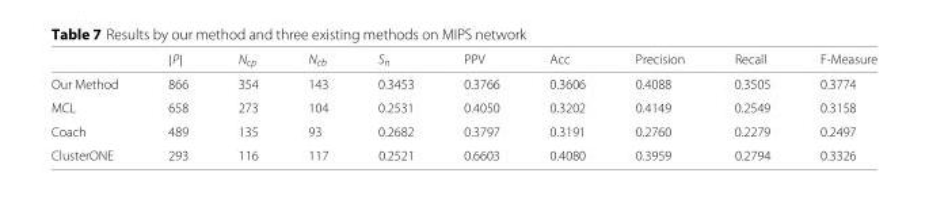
<table><thead><tr><td></td><td>|P|</td><td>N<sub>cp</sub></td><td>N<sub>cb</sub></td><td>S<sub>n</sub></td><td>PPV</td><td>Acc</td><td>Precision</td><td>Recall</td><td>F-Measure</td></tr></thead><tbody><tr><td>Our Method</td><td>866</td><td>354</td><td>143</td><td>0.3453</td><td>0.3766</td><td>0.3606</td><td>0.4088</td><td>0.3505</td><td>0.3774</td></tr><tr><td>MCL</td><td>658</td><td>273</td><td>104</td><td>0.2531</td><td>0.4050</td><td>0.3202</td><td>0.4149</td><td>0.2549</td><td>0.3158</td></tr><tr><td>Coach</td><td>489</td><td>135</td><td>93</td><td>0.2682</td><td>0.3797</td><td>0.3191</td><td>0.2760</td><td>0.2279</td><td>0.2497</td></tr><tr><td>ClusterONE</td><td>293</td><td>116</td><td>117</td><td>0.2521</td><td>0.6603</td><td>0.4080</td><td>0.3959</td><td>0.2794</td><td>0.3326</td></tr></tbody></table>